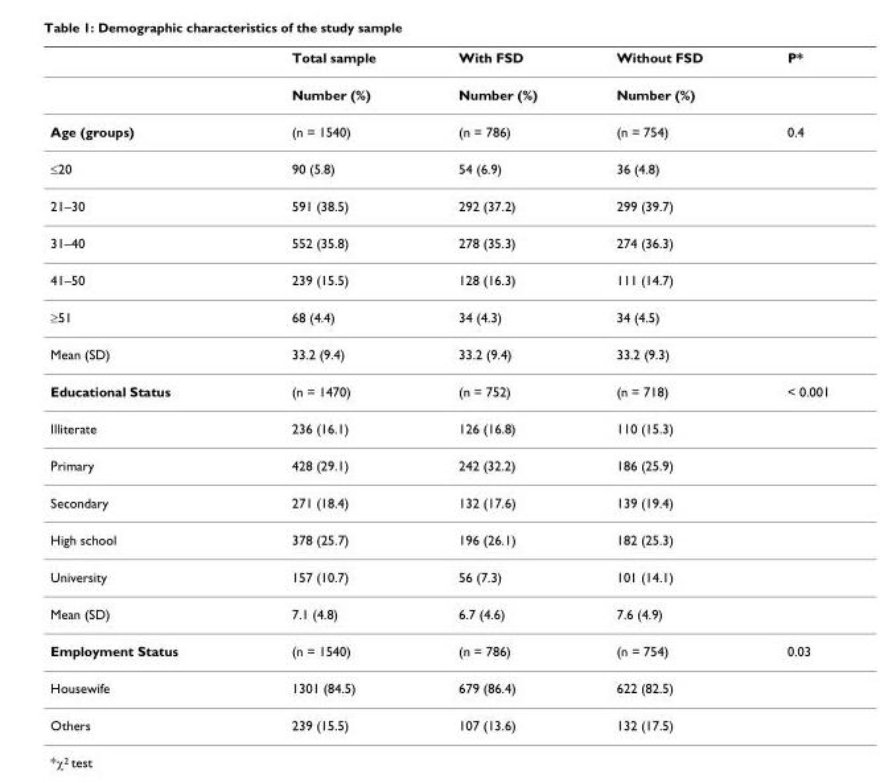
<table><thead><tr><td></td><td>Total sample</td><td>With FSD</td><td>Without FSD</td><td>P*</td></tr></thead><tbody><tr><td></td><td>Number (%)</td><td>Number (%)</td><td>Number (%)</td><td></td></tr><tr><td>Age (groups)</td><td>(n = 1540)</td><td>(n = 786)</td><td>(n = 754)</td><td>0.4</td></tr><tr><td>≤20</td><td>90 (5.8)</td><td>54 (6.9)</td><td>36 (4.8)</td><td></td></tr><tr><td>21–30</td><td>591 (38.5)</td><td>292 (37.2)</td><td>299 (39.7)</td><td></td></tr><tr><td>31–40</td><td>552 (35.8)</td><td>278 (35.3)</td><td>274 (36.3)</td><td></td></tr><tr><td>41–50</td><td>239 (15.5)</td><td>128 (16.3)</td><td>111 (14.7)</td><td></td></tr><tr><td>≥51</td><td>68 (4.4)</td><td>34 (4.3)</td><td>34 (4.5)</td><td></td></tr><tr><td>Mean (SD)</td><td>33.2 (9.4)</td><td>33.2 (9.4)</td><td>33.2 (9.3)</td><td></td></tr><tr><td>Educational Status</td><td>(n = 1470)</td><td>(n = 752)</td><td>(n = 718)</td><td>&lt; 0.001</td></tr><tr><td>Illiterate</td><td>236 (16.1)</td><td>126 (16.8)</td><td>110 (15.3)</td><td></td></tr><tr><td>Primary</td><td>428 (29.1)</td><td>242 (32.2)</td><td>186 (25.9)</td><td></td></tr><tr><td>Secondary</td><td>271 (18.4)</td><td>132 (17.6)</td><td>139 (19.4)</td><td></td></tr><tr><td>High school</td><td>378 (25.7)</td><td>196 (26.1)</td><td>182 (25.3)</td><td></td></tr><tr><td>University</td><td>157 (10.7)</td><td>56 (7.3)</td><td>101 (14.1)</td><td></td></tr><tr><td>Mean (SD)</td><td>7.1 (4.8)</td><td>6.7 (4.6)</td><td>7.6 (4.9)</td><td></td></tr><tr><td>Employment Status</td><td>(n = 1540)</td><td>(n = 786)</td><td>(n = 754)</td><td>0.03</td></tr><tr><td>Housewife</td><td>1301 (84.5)</td><td>679 (86.4)</td><td>622 (82.5)</td><td></td></tr><tr><td>Others</td><td>239 (15.5)</td><td>107 (13.6)</td><td>132 (17.5)</td><td></td></tr></tbody></table>